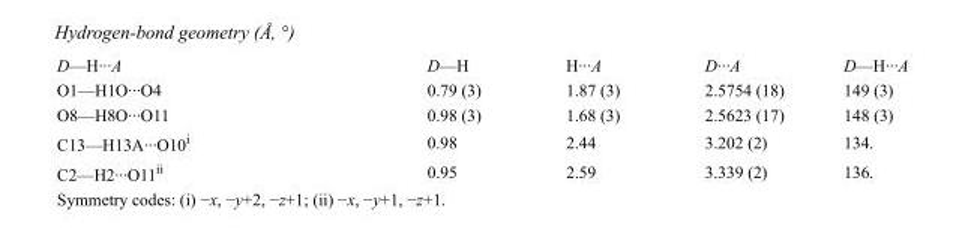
<table><tbody><tr><td>D—H···A</td><td>D—H</td><td>H···A</td><td>D···A</td><td>D—H···A</td></tr><tr><td>O1—H1O···O4</td><td>0.79 (3)</td><td>1.87 (3)</td><td>2.5754 (18)</td><td>149 (3)</td></tr><tr><td>O8—H8O···O11</td><td>0.98 (3)</td><td>1.68 (3)</td><td>2.5623 (17)</td><td>148 (3)</td></tr><tr><td>C13—H13A···O10<sup>i</sup></td><td>0.98</td><td>2.44</td><td>3.202 (2)</td><td>134.</td></tr><tr><td>C2—H2···O11<sup>ii</sup></td><td>0.95</td><td>2.59</td><td>3.339 (2)</td><td>136.</td></tr></tbody></table>